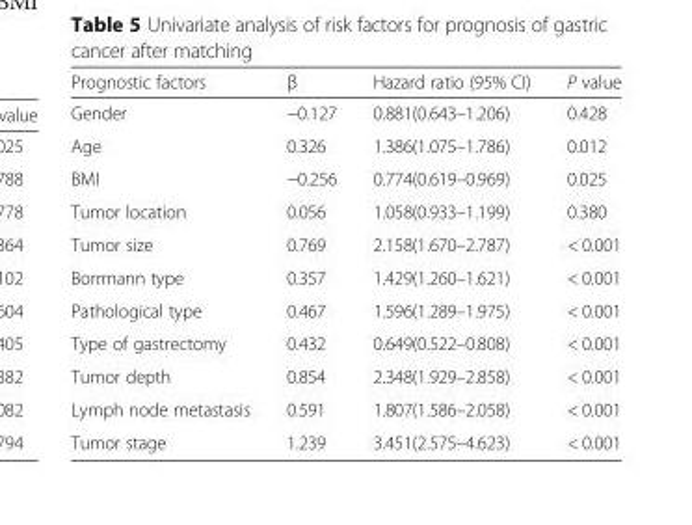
<table><thead><tr><td>Prognostic factors</td><td>β</td><td>Hazard ratio (95% CI)</td><td>P value</td></tr></thead><tbody><tr><td>Gender</td><td>−0.127</td><td>0.881(0.643–1.206)</td><td>0.428</td></tr><tr><td>Age</td><td>0.326</td><td>1.386(1.075–1.786)</td><td>0.012</td></tr><tr><td>BMI</td><td>−0.256</td><td>0.774(0.619–0.969)</td><td>0.025</td></tr><tr><td>Tumor location</td><td>0.056</td><td>1.058(0.933–1.199)</td><td>0.380</td></tr><tr><td>Tumor size</td><td>0.769</td><td>2.158(1.670–2.787)</td><td>&lt; 0.001</td></tr><tr><td>Borrmann type</td><td>0.357</td><td>1.429(1.260–1.621)</td><td>&lt; 0.001</td></tr><tr><td>Pathological type</td><td>0.467</td><td>1.596(1.289–1.975)</td><td>&lt; 0.001</td></tr><tr><td>Type of gastrectomy</td><td>0.432</td><td>0.649(0.522–0.808)</td><td>&lt; 0.001</td></tr><tr><td>Tumor depth</td><td>0.854</td><td>2.348(1.929–2.858)</td><td>&lt; 0.001</td></tr><tr><td>Lymph node metastasis</td><td>0.591</td><td>1.807(1.586–2.058)</td><td>&lt; 0.001</td></tr><tr><td>Tumor stage</td><td>1.239</td><td>3.451(2.575–4.623)</td><td>&lt; 0.001</td></tr></tbody></table>